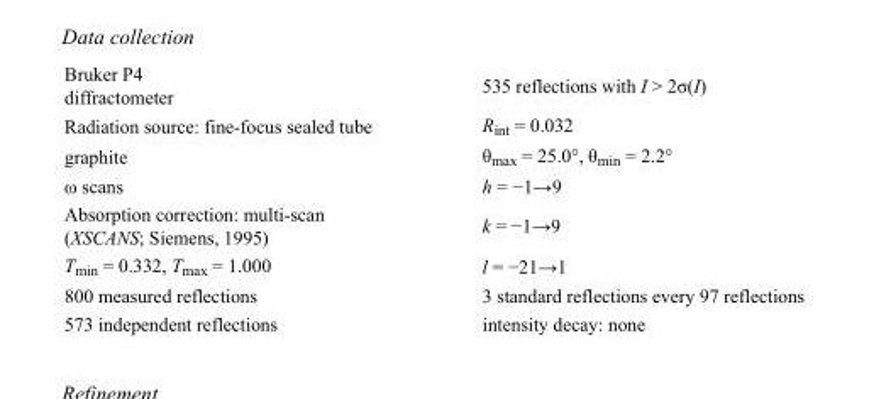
<table><tbody><tr><td>Bruker P4 diffractometer</td><td>535 reflections with I &gt; 2σ(I)</td></tr><tr><td>Radiation source: fine-focus sealed tube</td><td>R<sub>int</sub> = 0.032</td></tr><tr><td>graphite</td><td>θ<sub>max</sub> = 25.0°, θ<sub>min</sub> = 2.2°</td></tr><tr><td>ω scans</td><td>h = −1→9</td></tr><tr><td>Absorption correction: multi-scan (XSCANS; Siemens, 1995)</td><td>k = −1→9</td></tr><tr><td>T<sub>min</sub> = 0.332, T<sub>max</sub> = 1.000</td><td>l = −21→1</td></tr><tr><td>800 measured reflections</td><td>3 standard reflections every 97 reflections</td></tr><tr><td>573 independent reflections</td><td>intensity decay: none</td></tr></tbody></table>